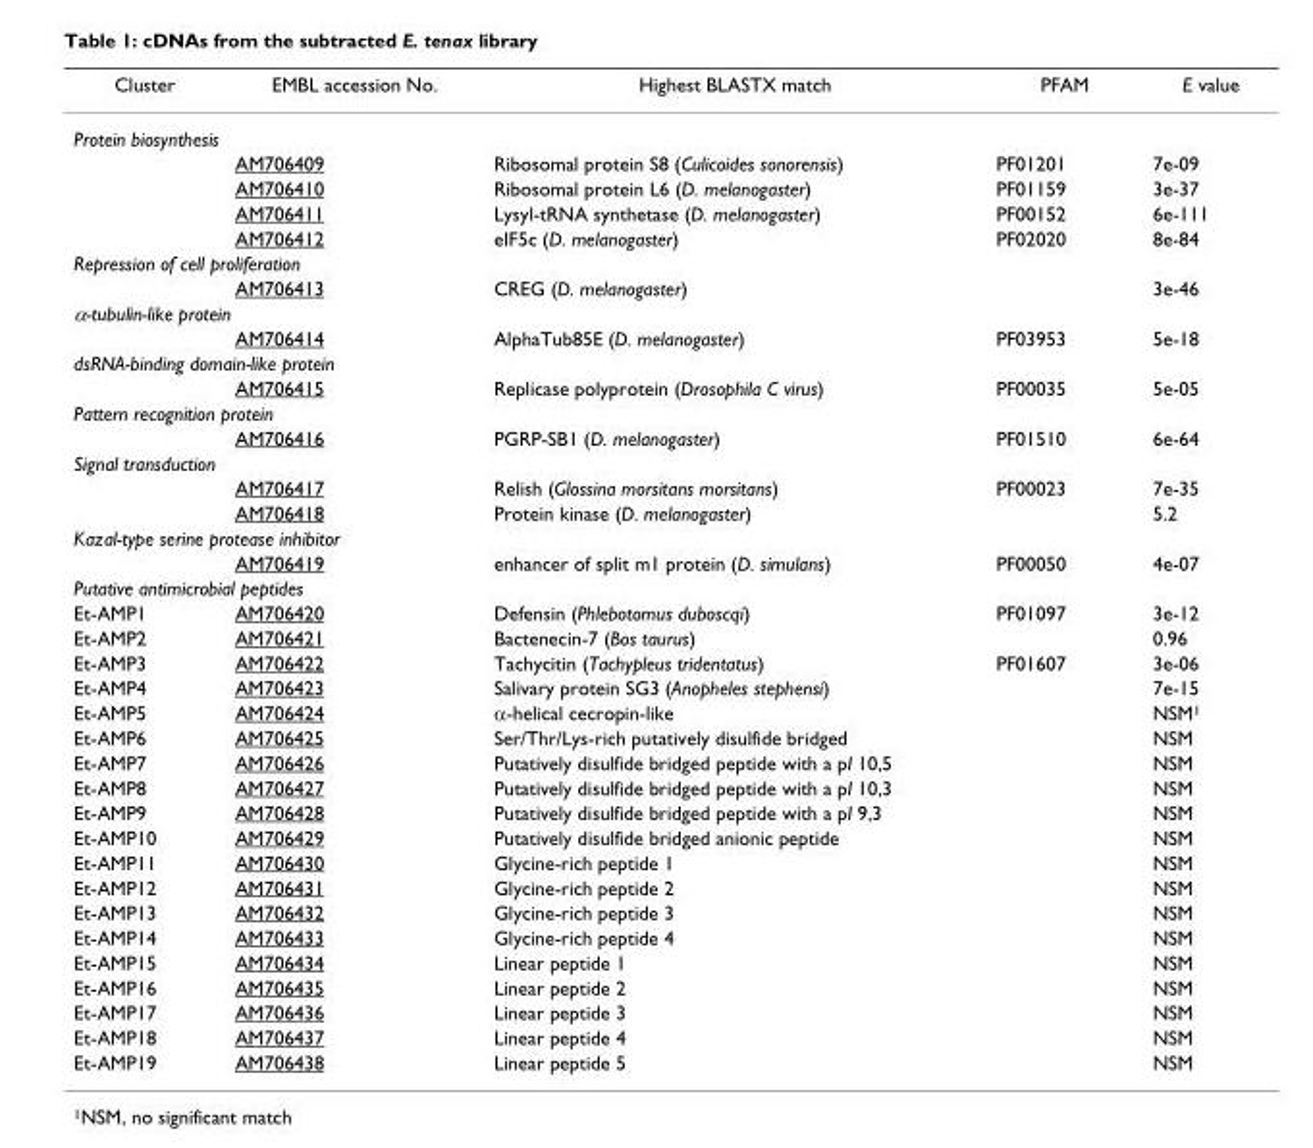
<table><thead><tr><td>Cluster</td><td>EMBL accession No.</td><td>Highest BLASTX match</td><td>PFAM</td><td>E value</td></tr></thead><tbody><tr><td colspan="5">Protein biosynthesis</td></tr><tr><td></td><td>AM706409</td><td>Ribosomal protein S8 (Culicoides sonorensis)</td><td>PF01201</td><td>7e-09</td></tr><tr><td></td><td>AM706410</td><td>Ribosomal protein L6 (D. melanogaster)</td><td>PF01159</td><td>3e-37</td></tr><tr><td></td><td>AM706411</td><td>Lysyl-tRNA synthetase (D. melanogaster)</td><td>PF00152</td><td>6e-111</td></tr><tr><td></td><td>AM706412</td><td>eIF5c (D. melanogaster)</td><td>PF02020</td><td>8e-84</td></tr><tr><td colspan="5">Repression of cell proliferation</td></tr><tr><td></td><td>AM706413</td><td>CREG (D. melanogaster)</td><td></td><td>3e-46</td></tr><tr><td colspan="5">α-tubulin-like protein</td></tr><tr><td></td><td>AM706414</td><td>AlphaTub85E (D. melanogaster)</td><td>PF03953</td><td>5e-18</td></tr><tr><td colspan="5">dsRNA-binding domain-like protein</td></tr><tr><td></td><td>AM706415</td><td>Replicase polyprotein (Drosophila C virus)</td><td>PF00035</td><td>5e-05</td></tr><tr><td colspan="5">Pattern recognition protein</td></tr><tr><td></td><td>AM706416</td><td>PGRP-SB1 (D. melanogaster)</td><td>PF01510</td><td>6e-64</td></tr><tr><td colspan="5">Signal transduction</td></tr><tr><td></td><td>AM706417</td><td>Relish (Glossina morsitans morsitans)</td><td>PF00023</td><td>7e-35</td></tr><tr><td></td><td>AM706418</td><td>Protein kinase (D. melanogaster)</td><td></td><td>5.2</td></tr><tr><td colspan="5">Kazal-type serine protease inhibitor</td></tr><tr><td></td><td>AM706419</td><td>enhancer of split m1 protein (D. simulans)</td><td>PF00050</td><td>4e-07</td></tr><tr><td colspan="5">Putative antimicrobial peptides</td></tr><tr><td>Et-AMP1</td><td>AM706420</td><td>Defensin (Phlebotomus duboscqi)</td><td>PF01097</td><td>3e-12</td></tr><tr><td>Et-AMP2</td><td>AM706421</td><td>Bactenecin-7 (Bos taurus)</td><td></td><td>0.96</td></tr><tr><td>Et-AMP3</td><td>AM706422</td><td>Tachycitin (Tachypleus tridentatus)</td><td>PF01607</td><td>3e-06</td></tr><tr><td>Et-AMP4</td><td>AM706423</td><td>Salivary protein SG3 (Anopheles stephensi)</td><td></td><td>7e-15</td></tr><tr><td>Et-AMP5</td><td>AM706424</td><td>α-helical cecropin-like</td><td></td><td>NSM<sup>1</sup></td></tr><tr><td>Et-AMP6</td><td>AM706425</td><td>Ser/Thr/Lys-rich putatively disulfide bridged</td><td></td><td>NSM</td></tr><tr><td>Et-AMP7</td><td>AM706426</td><td>Putatively disulfide bridged peptide with a pI 10,5</td><td></td><td>NSM</td></tr><tr><td>Et-AMP8</td><td>AM706427</td><td>Putatively disulfide bridged peptide with a pI 10,3</td><td></td><td>NSM</td></tr><tr><td>Et-AMP9</td><td>AM706428</td><td>Putatively disulfide bridged peptide with a pI 9,3</td><td></td><td>NSM</td></tr><tr><td>Et-AMP10</td><td>AM706429</td><td>Putatively disulfide bridged anionic peptide</td><td></td><td>NSM</td></tr><tr><td>Et-AMP11</td><td>AM706430</td><td>Glycine-rich peptide 1</td><td></td><td>NSM</td></tr><tr><td>Et-AMP12</td><td>AM706431</td><td>Glycine-rich peptide 2</td><td></td><td>NSM</td></tr><tr><td>Et-AMP13</td><td>AM706432</td><td>Glycine-rich peptide 3</td><td></td><td>NSM</td></tr><tr><td>Et-AMP14</td><td>AM706433</td><td>Glycine-rich peptide 4</td><td></td><td>NSM</td></tr><tr><td>Et-AMP15</td><td>AM706434</td><td>Linear peptide 1</td><td></td><td>NSM</td></tr><tr><td>Et-AMP16</td><td>AM706435</td><td>Linear peptide 2</td><td></td><td>NSM</td></tr><tr><td>Et-AMP17</td><td>AM706436</td><td>Linear peptide 3</td><td></td><td>NSM</td></tr><tr><td>Et-AMP18</td><td>AM706437</td><td>Linear peptide 4</td><td></td><td>NSM</td></tr><tr><td>Et-AMP19</td><td>AM706438</td><td>Linear peptide 5</td><td></td><td>NSM</td></tr></tbody></table>